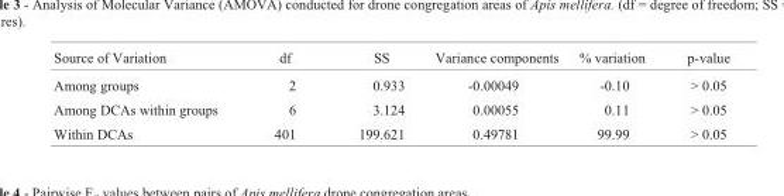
<table><thead><tr><td>Source of Variation</td><td>df</td><td>SS</td><td>Variance components</td><td>% variation</td><td>p-value</td></tr></thead><tbody><tr><td>Among groups</td><td>2</td><td>0.933</td><td>-0.00049</td><td>-0.10</td><td>&gt; 0.05</td></tr><tr><td>Among DCAs within groups</td><td>6</td><td>3.124</td><td>0.00055</td><td>0.11</td><td>&gt; 0.05</td></tr><tr><td>Within DCAs</td><td>401</td><td>199.621</td><td>0.49781</td><td>99.99</td><td>&gt; 0.05</td></tr></tbody></table>